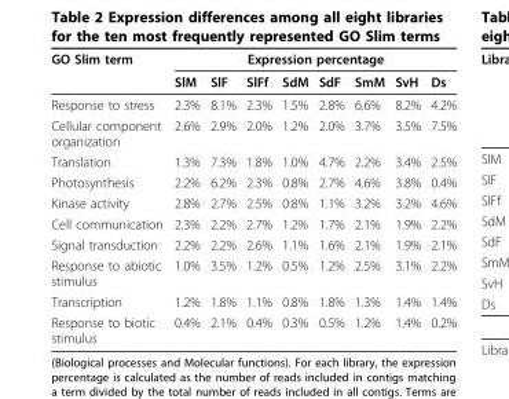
<table><thead><tr><td rowspan="2">GO Slim term</td><td colspan="8">Expression percentage</td></tr><tr><td>SlM</td><td>SlF</td><td>SlFf</td><td>SdM</td><td>SdF</td><td>SmM</td><td>SvH</td><td>Ds</td></tr></thead><tbody><tr><td>Response to stress</td><td>2.3%</td><td>8.1%</td><td>2.3%</td><td>1.5%</td><td>2.8%</td><td>6.6%</td><td>8.2%</td><td>4.2%</td></tr><tr><td>Cellular component organization</td><td>2.6%</td><td>2.9%</td><td>2.0%</td><td>1.2%</td><td>2.0%</td><td>3.7%</td><td>3.5%</td><td>7.5%</td></tr><tr><td>Translation</td><td>1.3%</td><td>7.3%</td><td>1.8%</td><td>1.0%</td><td>4.7%</td><td>2.2%</td><td>3.4%</td><td>2.5%</td></tr><tr><td>Photosynthesis</td><td>2.2%</td><td>6.2%</td><td>2.3%</td><td>0.8%</td><td>2.7%</td><td>4.6%</td><td>3.8%</td><td>0.4%</td></tr><tr><td>Kinase activity</td><td>2.8%</td><td>2.7%</td><td>2.5%</td><td>0.8%</td><td>1.1%</td><td>3.2%</td><td>3.2%</td><td>4.6%</td></tr><tr><td>Cell communication</td><td>2.3%</td><td>2.2%</td><td>2.7%</td><td>1.2%</td><td>1.7%</td><td>2.1%</td><td>1.9%</td><td>2.2%</td></tr><tr><td>Signal transduction</td><td>2.2%</td><td>2.2%</td><td>2.6%</td><td>1.1%</td><td>1.6%</td><td>2.1%</td><td>1.9%</td><td>2.1%</td></tr><tr><td>Response to abiotic stimulus</td><td>1.0%</td><td>3.5%</td><td>1.2%</td><td>0.5%</td><td>1.2%</td><td>2.5%</td><td>3.1%</td><td>2.2%</td></tr><tr><td>Transcription</td><td>1.2%</td><td>1.8%</td><td>1.1%</td><td>0.8%</td><td>1.8%</td><td>1.3%</td><td>1.4%</td><td>1.4%</td></tr><tr><td>Response to biotic stimulus</td><td>0.4%</td><td>2.1%</td><td>0.4%</td><td>0.3%</td><td>0.5%</td><td>1.2%</td><td>1.4%</td><td>0.2%</td></tr></tbody></table>